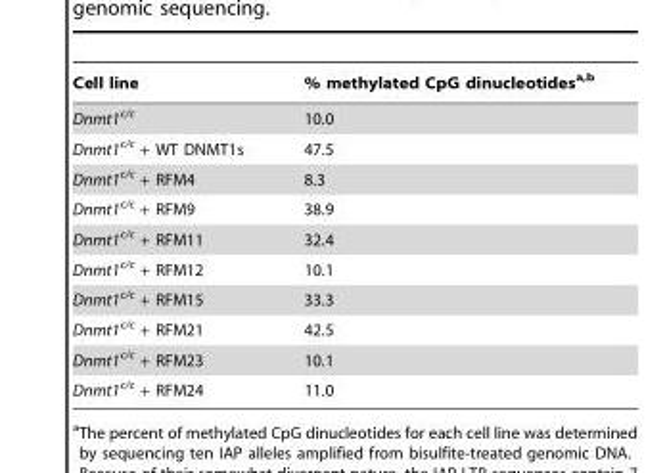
<table><thead><tr><td>Cell line</td><td>% methylated CpG dinucleotides<sup>a,</sup>b</td></tr></thead><tbody><tr><td>Dnmt1<sup>c/c</sup></td><td>10.0</td></tr><tr><td>Dnmt1<sup>c/c</sup> + WT DNMT1s</td><td>47.5</td></tr><tr><td>Dnmt1<sup>c/c</sup> + RFM4</td><td>8.3</td></tr><tr><td>Dnmt1<sup>c/c</sup> + RFM9</td><td>38.9</td></tr><tr><td>Dnmt1<sup>c/c</sup> + RFM11</td><td>32.4</td></tr><tr><td>Dnmt1<sup>c/c</sup> + RFM12</td><td>10.1</td></tr><tr><td>Dnmt1<sup>c/c</sup> + RFM15</td><td>33.3</td></tr><tr><td>Dnmt1<sup>c/c</sup> + RFM21</td><td>42.5</td></tr><tr><td>Dnmt1<sup>c/c</sup> + RFM23</td><td>10.1</td></tr><tr><td>Dnmt1<sup>c/c</sup> + RFM24</td><td>11.0</td></tr></tbody></table>